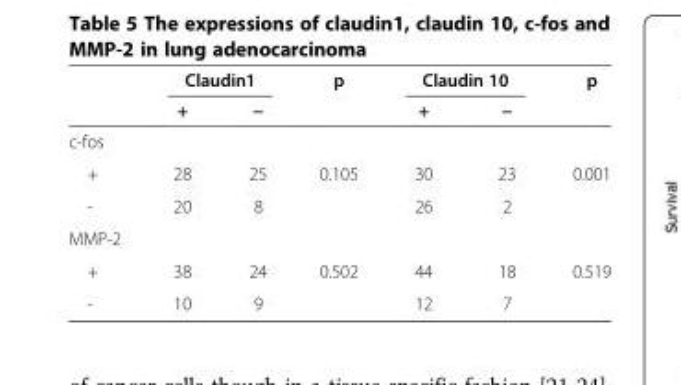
<table><thead><tr><td rowspan="2"></td><td colspan="2">Claudin1</td><td rowspan="2">p</td><td colspan="2">Claudin 10</td><td rowspan="2">p</td></tr><tr><td>+</td><td>−</td><td>+</td><td>−</td></tr></thead><tbody><tr><td colspan="7">c-fos</td></tr><tr><td>+</td><td>28</td><td>25</td><td>0.105</td><td>30</td><td>23</td><td>0.001</td></tr><tr><td>-</td><td>20</td><td>8</td><td></td><td>26</td><td>2</td><td></td></tr><tr><td colspan="7">MMP-2</td></tr><tr><td>+</td><td>38</td><td>24</td><td>0.502</td><td>44</td><td>18</td><td>0.519</td></tr><tr><td>-</td><td>10</td><td>9</td><td></td><td>12</td><td>7</td><td></td></tr></tbody></table>